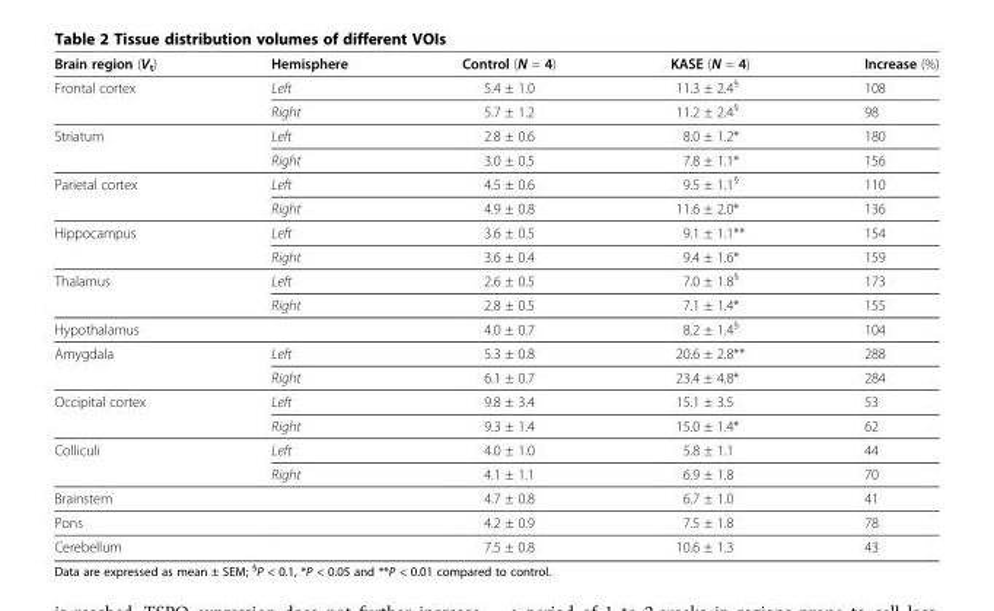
<table><thead><tr><td>Brain region (V<sub>t</sub>)</td><td>Hemisphere</td><td>Control (N = 4)</td><td>KASE (N = 4)</td><td>Increase (%)</td></tr></thead><tbody><tr><td rowspan="2">Frontal cortex</td><td>Left</td><td>5.4 ± 1.0</td><td>11.3 ± 2.4<sup>§</sup></td><td>108</td></tr><tr><td>Right</td><td>5.7 ± 1.2</td><td>11.2 ± 2.4<sup>§</sup></td><td>98</td></tr><tr><td rowspan="2">Striatum</td><td>Left</td><td>2.8 ± 0.6</td><td>8.0 ± 1.2*</td><td>180</td></tr><tr><td>Right</td><td>3.0 ± 0.5</td><td>7.8 ± 1.1*</td><td>156</td></tr><tr><td rowspan="2">Parietal cortex</td><td>Left</td><td>4.5 ± 0.6</td><td>9.5 ± 1.1<sup>§</sup></td><td>110</td></tr><tr><td>Right</td><td>4.9 ± 0.8</td><td>11.6 ± 2.0*</td><td>136</td></tr><tr><td rowspan="2">Hippocampus</td><td>Left</td><td>3.6 ± 0.5</td><td>9.1 ± 1.1**</td><td>154</td></tr><tr><td>Right</td><td>3.6 ± 0.4</td><td>9.4 ± 1.6*</td><td>159</td></tr><tr><td rowspan="2">Thalamus</td><td>Left</td><td>2.6 ± 0.5</td><td>7.0 ± 1.8<sup>§</sup></td><td>173</td></tr><tr><td>Right</td><td>2.8 ± 0.5</td><td>7.1 ± 1.4*</td><td>155</td></tr><tr><td>Hypothalamus</td><td></td><td>4.0 ± 0.7</td><td>8.2 ± 1.4<sup>§</sup></td><td>104</td></tr><tr><td rowspan="2">Amygdala</td><td>Left</td><td>5.3 ± 0.8</td><td>20.6 ± 2.8**</td><td>288</td></tr><tr><td>Right</td><td>6.1 ± 0.7</td><td>23.4 ± 4.8*</td><td>284</td></tr><tr><td rowspan="2">Occipital cortex</td><td>Left</td><td>9.8 ± 3.4</td><td>15.1 ± 3.5</td><td>53</td></tr><tr><td>Right</td><td>9.3 ± 1.4</td><td>15.0 ± 1.4*</td><td>62</td></tr><tr><td rowspan="2">Colliculi</td><td>Left</td><td>4.0 ± 1.0</td><td>5.8 ± 1.1</td><td>44</td></tr><tr><td>Right</td><td>4.1 ± 1.1</td><td>6.9 ± 1.8</td><td>70</td></tr><tr><td>Brainstem</td><td></td><td>4.7 ± 0.8</td><td>6.7 ± 1.0</td><td>41</td></tr><tr><td>Pons</td><td></td><td>4.2 ± 0.9</td><td>7.5 ± 1.8</td><td>78</td></tr><tr><td>Cerebellum</td><td></td><td>7.5 ± 0.8</td><td>10.6 ± 1.3</td><td>43</td></tr></tbody></table>